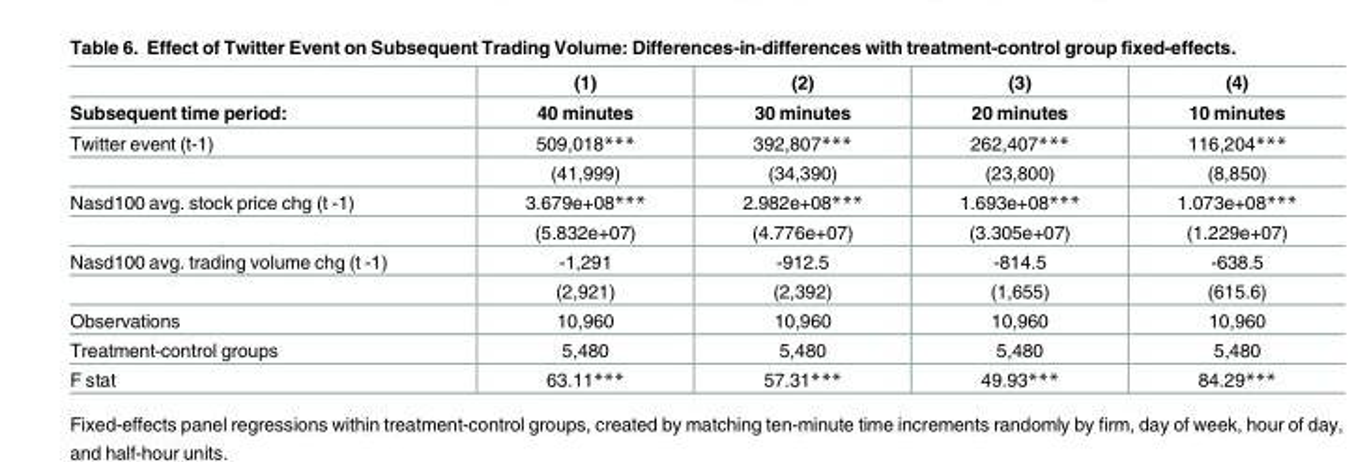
<table><thead><tr><td rowspan="2">Subsequent time period:</td><td rowspan="2">(1) 40 minutes</td><td rowspan="2">(2) 30 minutes</td><td rowspan="2">(3) 20 minutes</td><td rowspan="2">(4) 10 minutes</td></tr><tr></tr></thead><tbody><tr><td rowspan="2">Twitter event (t-1)</td><td>509,018***</td><td>392,807***</td><td>262,407***</td><td>116,204***</td></tr><tr><td>(41,999)</td><td>(34,390)</td><td>(23,800)</td><td>(8,850)</td></tr><tr><td rowspan="2">Nasd100 avg. stock price chg (t -1)</td><td>3.679e+08***</td><td>2.982e+08***</td><td>1.693e+08***</td><td>1.073e+08***</td></tr><tr><td>(5.832e+07)</td><td>(4.776e+07)</td><td>(3.305e+07)</td><td>(1.229e+07)</td></tr><tr><td rowspan="2">Nasd100 avg. trading volume chg (t -1)</td><td>-1,291</td><td>-912.5</td><td>-814.5</td><td>-638.5</td></tr><tr><td>(2,921)</td><td>(2,392)</td><td>(1,655)</td><td>(615.6)</td></tr><tr><td>Observations</td><td>10,960</td><td>10,960</td><td>10,960</td><td>10,960</td></tr><tr><td>Treatment-control groups</td><td>5,480</td><td>5,480</td><td>5,480</td><td>5,480</td></tr><tr><td>F stat</td><td>63.11***</td><td>57.31***</td><td>49.93***</td><td>84.29***</td></tr></tbody></table>